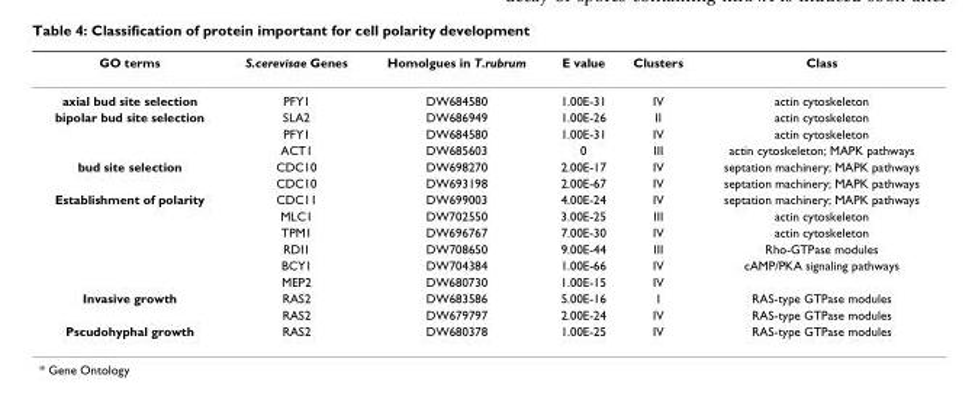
<table><thead><tr><td>GO terms</td><td>S.cerevisae Genes</td><td>Homolgues in T.rubrum</td><td>E value</td><td>Clusters</td><td>Class</td></tr></thead><tbody><tr><td>axial bud site selection</td><td>PFY1</td><td>DW684580</td><td>1.00E-31</td><td>IV</td><td>actin cytoskeleton</td></tr><tr><td rowspan="3">bipolar bud site selection</td><td>SLA2</td><td>DW686949</td><td>1.00E-26</td><td>II</td><td>actin cytoskeleton</td></tr><tr><td>PFY1</td><td>DW684580</td><td>1.00E-31</td><td>IV</td><td>actin cytoskeleton</td></tr><tr><td>ACT1</td><td>DW685603</td><td>0</td><td>III</td><td>actin cytoskeleton; MAPK pathways</td></tr><tr><td rowspan="2">bud site selection</td><td>CDC10</td><td>DW698270</td><td>2.00E-17</td><td>IV</td><td>septation machinery; MAPK pathways</td></tr><tr><td>CDC10</td><td>DW693198</td><td>2.00E-67</td><td>IV</td><td>septation machinery; MAPK pathways</td></tr><tr><td rowspan="6">Establishment of polarity</td><td>CDC11</td><td>DW699003</td><td>4.00E-24</td><td>IV</td><td>septation machinery; MAPK pathways</td></tr><tr><td>MLC1</td><td>DW702550</td><td>3.00E-25</td><td>III</td><td>actin cytoskeleton</td></tr><tr><td>TPM1</td><td>DW696767</td><td>7.00E-30</td><td>IV</td><td>actin cytoskeleton</td></tr><tr><td>RDI1</td><td>DW708650</td><td>9.00E-44</td><td>III</td><td>Rho-GTPase modules</td></tr><tr><td>BCY1</td><td>DW704384</td><td>1.00E-66</td><td>IV</td><td>cAMP/PKA signaling pathways</td></tr><tr><td>MEP2</td><td>DW680730</td><td>1.00E-15</td><td>IV</td><td></td></tr><tr><td rowspan="2">Invasive growth</td><td>RAS2</td><td>DW683586</td><td>5.00E-16</td><td>I</td><td>RAS-type GTPase modules</td></tr><tr><td>RAS2</td><td>DW679797</td><td>2.00E-24</td><td>IV</td><td>RAS-type GTPase modules</td></tr><tr><td>Pscudohyphal growth</td><td>RAS2</td><td>DW680378</td><td>1.00E-25</td><td>IV</td><td>RAS-type GTPase modules</td></tr></tbody></table>